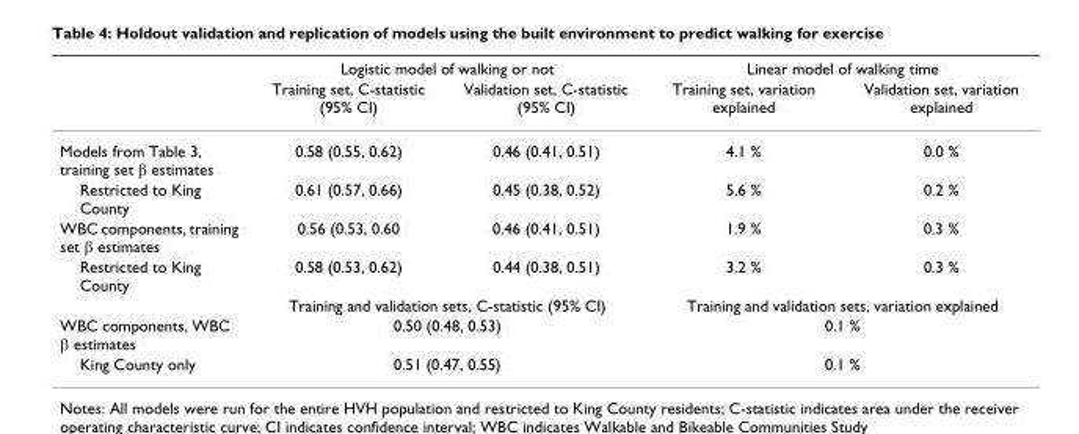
<table><thead><tr><td rowspan="2"></td><td colspan="2">Logistic model of walking or not</td><td colspan="2">Linear model of walking time</td></tr><tr><td>Training set, C-statistic (95% CI)</td><td>Validation set, C-statistic (95% CI)</td><td>Training set, variation explained</td><td>Validation set, variation explained</td></tr></thead><tbody><tr><td>Models from Table 3, training set β estimates</td><td>0.58 (0.55, 0.62)</td><td>0.46 (0.41, 0.51)</td><td>4.1 %</td><td>0.0 %</td></tr><tr><td>Restricted to King County</td><td>0.61 (0.57, 0.66)</td><td>0.45 (0.38, 0.52)</td><td>5.6 %</td><td>0.2 %</td></tr><tr><td>WBC components, training set β estimates</td><td>0.56 (0.53, 0.60</td><td>0.46 (0.41, 0.51)</td><td>1.9 %</td><td>0.3 %</td></tr><tr><td rowspan="2">Restricted to King County</td><td>0.58 (0.53, 0.62)</td><td>0.44 (0.38, 0.51)</td><td>3.2 %</td><td>0.3 %</td></tr><tr><td colspan="2">Training and validation sets, C-statistic (95% CI)</td><td colspan="2">Training and validation sets, variation explained</td></tr><tr><td>WBC components, WBC β estimates</td><td colspan="2">0.50 (0.48, 0.53)</td><td colspan="2">0.1 %</td></tr><tr><td>King County only</td><td colspan="2">0.51 (0.47, 0.55)</td><td colspan="2">0.1 %</td></tr></tbody></table>